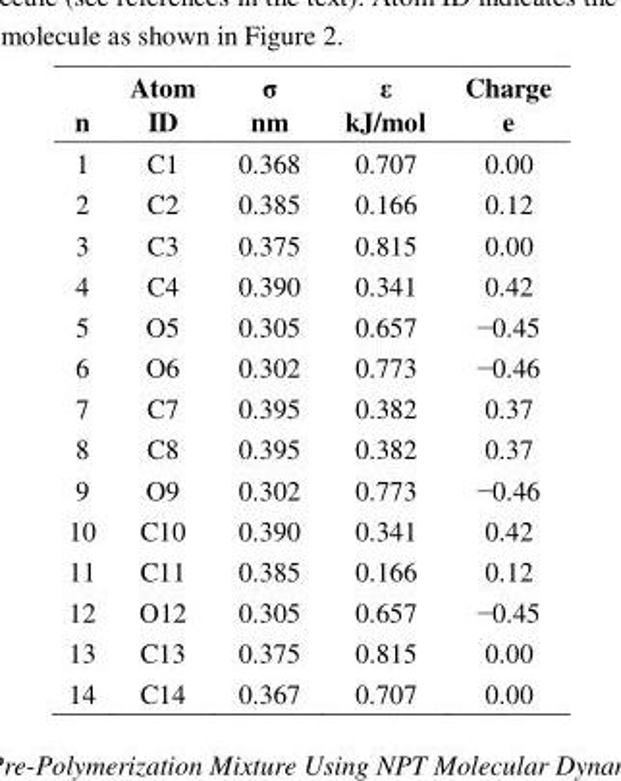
<table><thead><tr><td>n</td><td>Atom ID</td><td>σ nm</td><td>ε kJ/mol</td><td>Charge e</td></tr></thead><tbody><tr><td>1</td><td>C1</td><td>0.368</td><td>0.707</td><td>0.00</td></tr><tr><td>2</td><td>C2</td><td>0.385</td><td>0.166</td><td>0.12</td></tr><tr><td>3</td><td>C3</td><td>0.375</td><td>0.815</td><td>0.00</td></tr><tr><td>4</td><td>C4</td><td>0.390</td><td>0.341</td><td>0.42</td></tr><tr><td>5</td><td>O5</td><td>0.305</td><td>0.657</td><td>−0.45</td></tr><tr><td>6</td><td>O6</td><td>0.302</td><td>0.773</td><td>−0.46</td></tr><tr><td>7</td><td>C7</td><td>0.395</td><td>0.382</td><td>0.37</td></tr><tr><td>8</td><td>C8</td><td>0.395</td><td>0.382</td><td>0.37</td></tr><tr><td>9</td><td>O9</td><td>0.302</td><td>0.773</td><td>−0.46</td></tr><tr><td>10</td><td>C10</td><td>0.390</td><td>0.341</td><td>0.42</td></tr><tr><td>11</td><td>C11</td><td>0.385</td><td>0.166</td><td>0.12</td></tr><tr><td>12</td><td>O12</td><td>0.305</td><td>0.657</td><td>−0.45</td></tr><tr><td>13</td><td>C13</td><td>0.375</td><td>0.815</td><td>0.00</td></tr><tr><td>14</td><td>C14</td><td>0.367</td><td>0.707</td><td>0.00</td></tr></tbody></table>